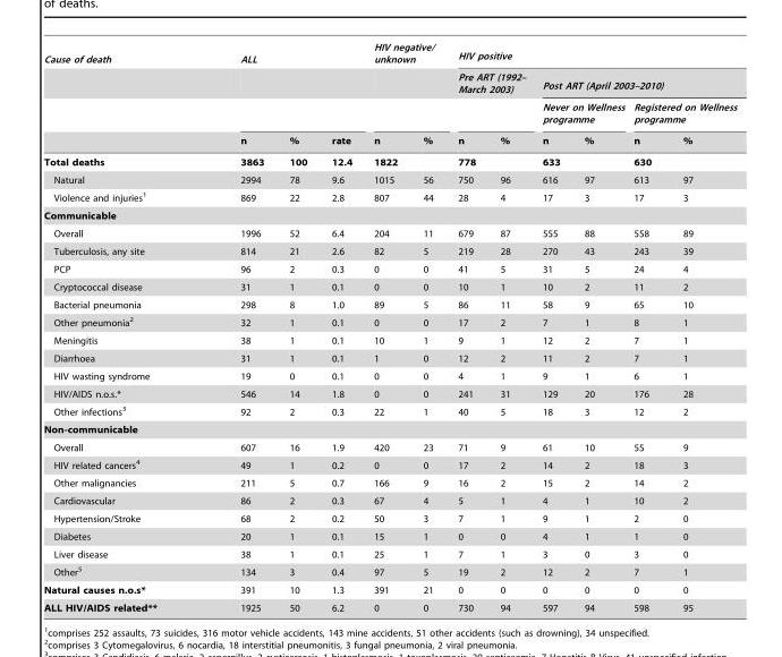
<table><thead><tr><td rowspan="4">Cause of death</td><td colspan="3">ALL</td><td colspan="2">HIV negative/ unknown</td><td colspan="6">HIV positive</td></tr><tr><td rowspan="3">n</td><td rowspan="3">%</td><td rowspan="3">rate</td><td rowspan="3">n</td><td rowspan="3">%</td><td colspan="2">Pre ART (1992– March 2003)</td><td colspan="4">Post ART (April 2003–2010)</td></tr><tr><td rowspan="2">n</td><td rowspan="2">%</td><td colspan="2">Never on Wellness programme</td><td colspan="2">Registered on Wellness programme</td></tr><tr><td>n</td><td>%</td><td>n</td><td>%</td></tr></thead><tbody><tr><td>Total deaths</td><td>3863</td><td>100</td><td>12.4</td><td>1822</td><td></td><td>778</td><td></td><td>633</td><td></td><td>630</td><td></td></tr><tr><td>Natural</td><td>2994</td><td>78</td><td>9.6</td><td>1015</td><td>56</td><td>750</td><td>96</td><td>616</td><td>97</td><td>613</td><td>97</td></tr><tr><td>Violence and injuries<sup>1</sup></td><td>869</td><td>22</td><td>2.8</td><td>807</td><td>44</td><td>28</td><td>4</td><td>17</td><td>3</td><td>17</td><td>3</td></tr><tr><td colspan="12">Communicable</td></tr><tr><td>Overall</td><td>1996</td><td>52</td><td>6.4</td><td>204</td><td>11</td><td>679</td><td>87</td><td>555</td><td>88</td><td>558</td><td>89</td></tr><tr><td>Tuberculosis, any site</td><td>814</td><td>21</td><td>2.6</td><td>82</td><td>5</td><td>219</td><td>28</td><td>270</td><td>43</td><td>243</td><td>39</td></tr><tr><td>PCP</td><td>96</td><td>2</td><td>0.3</td><td>0</td><td>0</td><td>41</td><td>5</td><td>31</td><td>5</td><td>24</td><td>4</td></tr><tr><td>Cryptococcal disease</td><td>31</td><td>1</td><td>0.1</td><td>0</td><td>0</td><td>10</td><td>1</td><td>10</td><td>2</td><td>11</td><td>2</td></tr><tr><td>Bacterial pneumonia</td><td>298</td><td>8</td><td>1.0</td><td>89</td><td>5</td><td>86</td><td>11</td><td>58</td><td>9</td><td>65</td><td>10</td></tr><tr><td>Other pneumonia<sup>2</sup></td><td>32</td><td>1</td><td>0.1</td><td>0</td><td>0</td><td>17</td><td>2</td><td>7</td><td>1</td><td>8</td><td>1</td></tr><tr><td>Meningitis</td><td>38</td><td>1</td><td>0.1</td><td>10</td><td>1</td><td>9</td><td>1</td><td>12</td><td>2</td><td>7</td><td>1</td></tr><tr><td>Diarrhoea</td><td>31</td><td>1</td><td>0.1</td><td>1</td><td>0</td><td>12</td><td>2</td><td>11</td><td>2</td><td>7</td><td>1</td></tr><tr><td>HIV wasting syndrome</td><td>19</td><td>0</td><td>0.1</td><td>0</td><td>0</td><td>4</td><td>1</td><td>9</td><td>1</td><td>6</td><td>1</td></tr><tr><td>HIV/AIDS n.o.s.*</td><td>546</td><td>14</td><td>1.8</td><td>0</td><td>0</td><td>241</td><td>31</td><td>129</td><td>20</td><td>176</td><td>28</td></tr><tr><td>Other infections<sup>3</sup></td><td>92</td><td>2</td><td>0.3</td><td>22</td><td>1</td><td>40</td><td>5</td><td>18</td><td>3</td><td>12</td><td>2</td></tr><tr><td colspan="12">Non-communicable</td></tr><tr><td>Overall</td><td>607</td><td>16</td><td>1.9</td><td>420</td><td>23</td><td>71</td><td>9</td><td>61</td><td>10</td><td>55</td><td>9</td></tr><tr><td>HIV related cancers<sup>4</sup></td><td>49</td><td>1</td><td>0.2</td><td>0</td><td>0</td><td>17</td><td>2</td><td>14</td><td>2</td><td>18</td><td>3</td></tr><tr><td>Other malignancies</td><td>211</td><td>5</td><td>0.7</td><td>166</td><td>9</td><td>16</td><td>2</td><td>15</td><td>2</td><td>14</td><td>2</td></tr><tr><td>Cardiovascular</td><td>86</td><td>2</td><td>0.3</td><td>67</td><td>4</td><td>5</td><td>1</td><td>4</td><td>1</td><td>10</td><td>2</td></tr><tr><td>Hypertension/Stroke</td><td>68</td><td>2</td><td>0.2</td><td>50</td><td>3</td><td>7</td><td>1</td><td>9</td><td>1</td><td>2</td><td>0</td></tr><tr><td>Diabetes</td><td>20</td><td>1</td><td>0.1</td><td>15</td><td>1</td><td>0</td><td>0</td><td>4</td><td>1</td><td>1</td><td>0</td></tr><tr><td>Liver disease</td><td>38</td><td>1</td><td>0.1</td><td>25</td><td>1</td><td>7</td><td>1</td><td>3</td><td>0</td><td>3</td><td>0</td></tr><tr><td>Other<sup>5</sup></td><td>134</td><td>3</td><td>0.4</td><td>97</td><td>5</td><td>19</td><td>2</td><td>12</td><td>2</td><td>7</td><td>1</td></tr><tr><td>Natural causes n.o.s*</td><td>391</td><td>10</td><td>1.3</td><td>391</td><td>21</td><td>0</td><td>0</td><td>0</td><td>0</td><td>0</td><td>0</td></tr><tr><td>ALL HIV/AIDS related**</td><td>1925</td><td>50</td><td>6.2</td><td>0</td><td>0</td><td>730</td><td>94</td><td>597</td><td>94</td><td>598</td><td>95</td></tr></tbody></table>